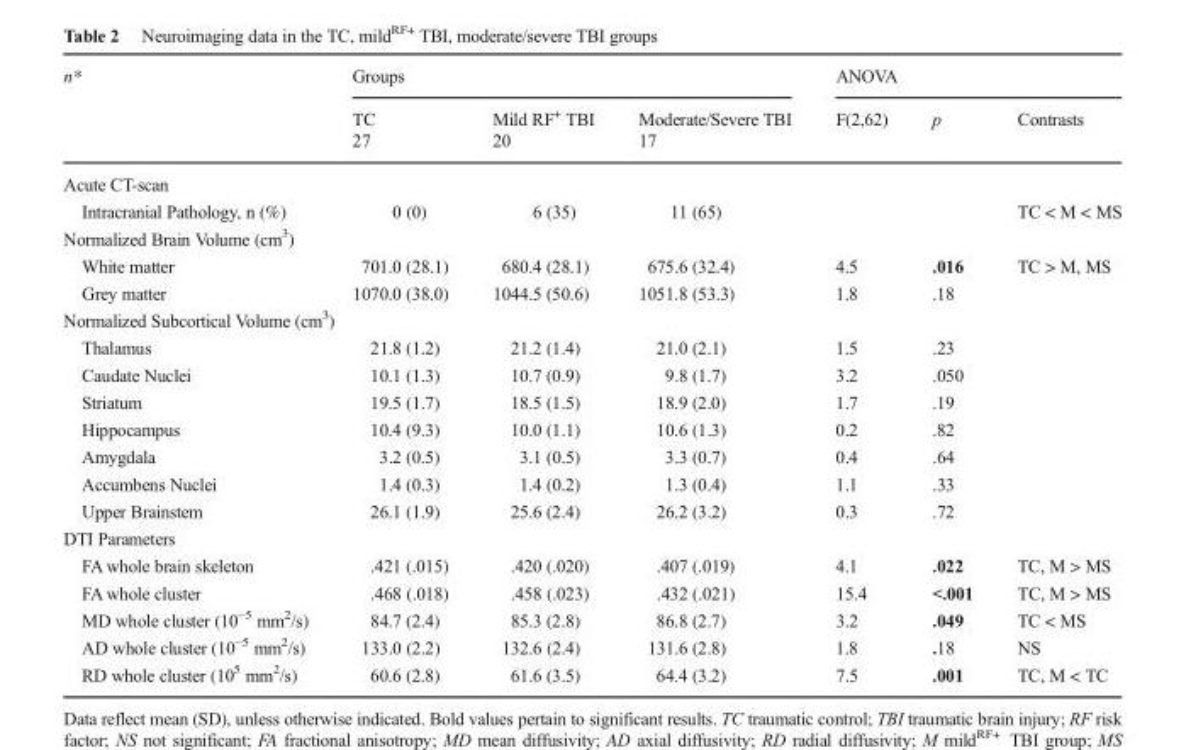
<table><thead><tr><td rowspan="3">n*</td><td colspan="3">Groups</td><td colspan="3">ANOVA</td></tr><tr><td rowspan="2">TC 27</td><td rowspan="2">Mild RF<sup>+</sup> TBI 20</td><td rowspan="2">Moderate/Severe TBI 17</td><td rowspan="2">F(2,62)</td><td rowspan="2">p</td><td rowspan="2">Contrasts</td></tr><tr></tr></thead><tbody><tr><td colspan="7">Acute CT-scan</td></tr><tr><td>Intracranial Pathology, n (%)</td><td>0 (0)</td><td>6 (35)</td><td>11 (65)</td><td></td><td></td><td>TC &lt; M &lt; MS</td></tr><tr><td colspan="7">Normalized Brain Volume (cm<sup>3</sup>)</td></tr><tr><td>White matter</td><td>701.0 (28.1)</td><td>680.4 (28.1)</td><td>675.6 (32.4)</td><td>4.5</td><td>.016</td><td>TC &gt; M, MS</td></tr><tr><td>Grey matter</td><td>1070.0 (38.0)</td><td>1044.5 (50.6)</td><td>1051.8 (53.3)</td><td>1.8</td><td>.18</td><td></td></tr><tr><td colspan="7">Normalized Subcortical Volume (cm<sup>3</sup>)</td></tr><tr><td>Thalamus</td><td>21.8 (1.2)</td><td>21.2 (1.4)</td><td>21.0 (2.1)</td><td>1.5</td><td>.23</td><td></td></tr><tr><td>Caudate Nuclei</td><td>10.1 (1.3)</td><td>10.7 (0.9)</td><td>9.8 (1.7)</td><td>3.2</td><td>.050</td><td></td></tr><tr><td>Striatum</td><td>19.5 (1.7)</td><td>18.5 (1.5)</td><td>18.9 (2.0)</td><td>1.7</td><td>.19</td><td></td></tr><tr><td>Hippocampus</td><td>10.4 (9.3)</td><td>10.0 (1.1)</td><td>10.6 (1.3)</td><td>0.2</td><td>.82</td><td></td></tr><tr><td>Amygdala</td><td>3.2 (0.5)</td><td>3.1 (0.5)</td><td>3.3 (0.7)</td><td>0.4</td><td>.64</td><td></td></tr><tr><td>Accumbens Nuclei</td><td>1.4 (0.3)</td><td>1.4 (0.2)</td><td>1.3 (0.4)</td><td>1.1</td><td>.33</td><td></td></tr><tr><td>Upper Brainstem</td><td>26.1 (1.9)</td><td>25.6 (2.4)</td><td>26.2 (3.2)</td><td>0.3</td><td>.72</td><td></td></tr><tr><td colspan="7">DTI Parameters</td></tr><tr><td>FA whole brain skeleton</td><td>.421 (.015)</td><td>.420 (.020)</td><td>.407 (.019)</td><td>4.1</td><td>.022</td><td>TC, M &gt; MS</td></tr><tr><td>FA whole cluster</td><td>.468 (.018)</td><td>.458 (.023)</td><td>.432 (.021)</td><td>15.4</td><td>&lt;.001</td><td>TC, M &gt; MS</td></tr><tr><td>MD whole cluster (10<sup>−5</sup> mm<sup>2</sup>/s)</td><td>84.7 (2.4)</td><td>85.3 (2.8)</td><td>86.8 (2.7)</td><td>3.2</td><td>.049</td><td>TC &lt; MS</td></tr><tr><td>AD whole cluster (10<sup>−5</sup> mm<sup>2</sup>/s)</td><td>133.0 (2.2)</td><td>132.6 (2.4)</td><td>131.6 (2.8)</td><td>1.8</td><td>.18</td><td>NS</td></tr><tr><td>RD whole cluster (10<sup>5</sup> mm<sup>2</sup>/s)</td><td>60.6 (2.8)</td><td>61.6 (3.5)</td><td>64.4 (3.2)</td><td>7.5</td><td>.001</td><td>TC, M &lt; TC</td></tr></tbody></table>